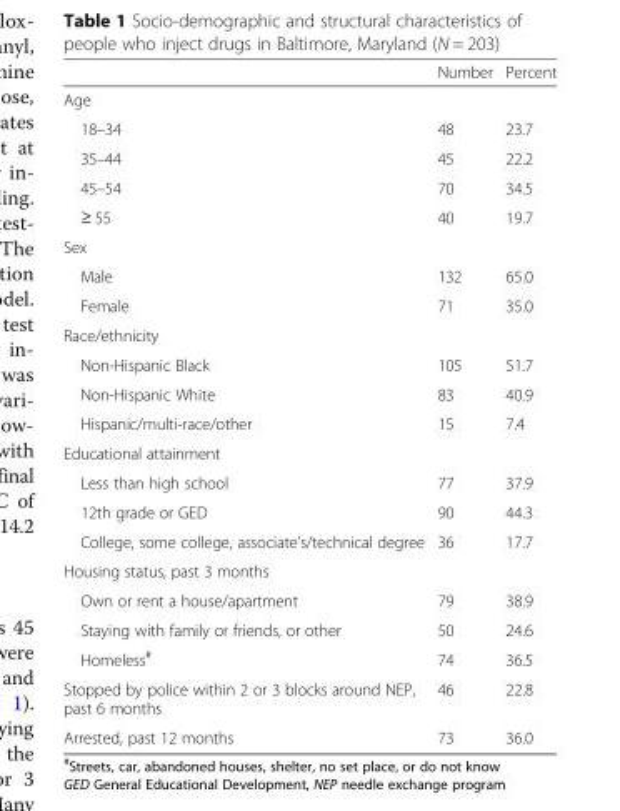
<table><thead><tr><td></td><td>Number</td><td>Percent</td></tr></thead><tbody><tr><td colspan="3">Age</td></tr><tr><td>18–34</td><td>48</td><td>23.7</td></tr><tr><td>35–44</td><td>45</td><td>22.2</td></tr><tr><td>45–54</td><td>70</td><td>34.5</td></tr><tr><td>≥ 55</td><td>40</td><td>19.7</td></tr><tr><td colspan="3">Sex</td></tr><tr><td>Male</td><td>132</td><td>65.0</td></tr><tr><td>Female</td><td>71</td><td>35.0</td></tr><tr><td colspan="3">Race/ethnicity</td></tr><tr><td>Non-Hispanic Black</td><td>105</td><td>51.7</td></tr><tr><td>Non-Hispanic White</td><td>83</td><td>40.9</td></tr><tr><td>Hispanic/multi-race/other</td><td>15</td><td>7.4</td></tr><tr><td colspan="3">Educational attainment</td></tr><tr><td>Less than high school</td><td>77</td><td>37.9</td></tr><tr><td>12th grade or GED</td><td>90</td><td>44.3</td></tr><tr><td>College, some college, associate’s/technical degree</td><td>36</td><td>17.7</td></tr><tr><td colspan="3">Housing status, past 3 months</td></tr><tr><td>Own or rent a house/apartment</td><td>79</td><td>38.9</td></tr><tr><td>Staying with family or friends, or other</td><td>50</td><td>24.6</td></tr><tr><td>Homeless<sup>#</sup></td><td>74</td><td>36.5</td></tr><tr><td>Stopped by police within 2 or 3 blocks around NEP, past 6 months</td><td>46</td><td>22.8</td></tr><tr><td>Arrested, past 12 months</td><td>73</td><td>36.0</td></tr></tbody></table>